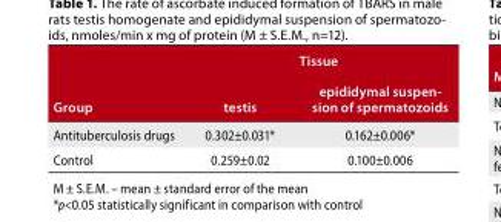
<table><thead><tr><td rowspan="2">Group</td><td colspan="2">Tissue</td></tr><tr><td>testis</td><td>epididymal suspen- sion of spermatozoids</td></tr></thead><tbody><tr><td>Antituberculosis drugs</td><td>0.302±0.031*</td><td>0.162±0.006*</td></tr><tr><td>Control</td><td>0.259±0.02</td><td>0.100±0.006</td></tr></tbody></table>